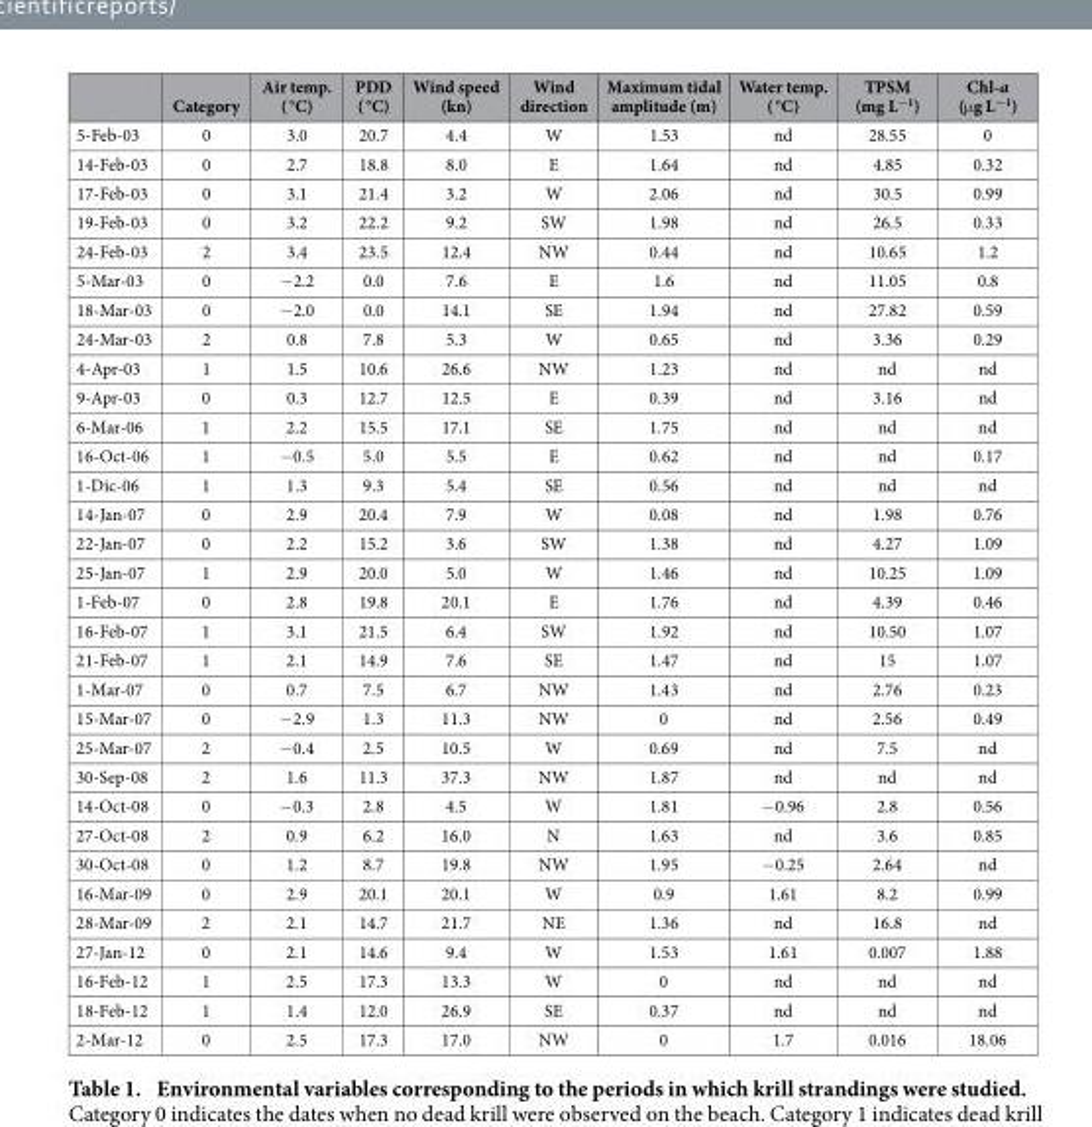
<table><thead><tr><td></td><td>Category</td><td>Air temp. ( °C)</td><td>PDD ( °C)</td><td>Wind speed (kn)</td><td>Wind direction</td><td>Maximum tidal amplitude (m)</td><td>Water temp. ( °C)</td><td>TPSM (mg L<sup>−1</sup>)</td><td>Chl-a (μ g L<sup>−1</sup>)</td></tr></thead><tbody><tr><td>5-Feb-03</td><td>0</td><td>3.0</td><td>20.7</td><td>4.4</td><td>W</td><td>1.53</td><td>nd</td><td>28.55</td><td>0</td></tr><tr><td>14-Feb-03</td><td>0</td><td>2.7</td><td>18.8</td><td>8.0</td><td>E</td><td>1.64</td><td>nd</td><td>4.85</td><td>0.32</td></tr><tr><td>17-Feb-03</td><td>0</td><td>3.1</td><td>21.4</td><td>3.2</td><td>W</td><td>2.06</td><td>nd</td><td>30.5</td><td>0.99</td></tr><tr><td>19-Feb-03</td><td>0</td><td>3.2</td><td>22.2</td><td>9.2</td><td>SW</td><td>1.98</td><td>nd</td><td>26.5</td><td>0.33</td></tr><tr><td>24-Feb-03</td><td>2</td><td>3.4</td><td>23.5</td><td>12.4</td><td>NW</td><td>0.44</td><td>nd</td><td>10.65</td><td>1.2</td></tr><tr><td>5-Mar-03</td><td>0</td><td>− 2.2</td><td>0.0</td><td>7.6</td><td>E</td><td>1.6</td><td>nd</td><td>11.05</td><td>0.8</td></tr><tr><td>18-Mar-03</td><td>0</td><td>− 2.0</td><td>0.0</td><td>14.1</td><td>SE</td><td>1.94</td><td>nd</td><td>27.82</td><td>0.59</td></tr><tr><td>24-Mar-03</td><td>2</td><td>0.8</td><td>7.8</td><td>5.3</td><td>W</td><td>0.65</td><td>nd</td><td>3.36</td><td>0.29</td></tr><tr><td>4-Apr-03</td><td>1</td><td>1.5</td><td>10.6</td><td>26.6</td><td>NW</td><td>1.23</td><td>nd</td><td>nd</td><td>nd</td></tr><tr><td>9-Apr-03</td><td>0</td><td>0.3</td><td>12.7</td><td>12.5</td><td>E</td><td>0.39</td><td>nd</td><td>3.16</td><td>nd</td></tr><tr><td>6-Mar-06</td><td>1</td><td>2.2</td><td>15.5</td><td>17.1</td><td>SE</td><td>1.75</td><td>nd</td><td>nd</td><td>nd</td></tr><tr><td>16-Oct-06</td><td>1</td><td>− 0.5</td><td>5.0</td><td>5.5</td><td>E</td><td>0.62</td><td>nd</td><td>nd</td><td>0.17</td></tr><tr><td>1-Dic-06</td><td>1</td><td>1.3</td><td>9.3</td><td>5.4</td><td>SE</td><td>0.56</td><td>nd</td><td>nd</td><td>nd</td></tr><tr><td>14-Jan-07</td><td>0</td><td>2.9</td><td>20.4</td><td>7.9</td><td>W</td><td>0.08</td><td>nd</td><td>1.98</td><td>0.76</td></tr><tr><td>22-Jan-07</td><td>0</td><td>2.2</td><td>15.2</td><td>3.6</td><td>SW</td><td>1.38</td><td>nd</td><td>4.27</td><td>1.09</td></tr><tr><td>25-Jan-07</td><td>1</td><td>2.9</td><td>20.0</td><td>5.0</td><td>W</td><td>1.46</td><td>nd</td><td>10.25</td><td>1.09</td></tr><tr><td>1-Feb-07</td><td>0</td><td>2.8</td><td>19.8</td><td>20.1</td><td>E</td><td>1.76</td><td>nd</td><td>4.39</td><td>0.46</td></tr><tr><td>16-Feb-07</td><td>1</td><td>3.1</td><td>21.5</td><td>6.4</td><td>SW</td><td>1.92</td><td>nd</td><td>10.50</td><td>1.07</td></tr><tr><td>21-Feb-07</td><td>1</td><td>2.1</td><td>14.9</td><td>7.6</td><td>SE</td><td>1.47</td><td>nd</td><td>15</td><td>1.07</td></tr><tr><td>1-Mar-07</td><td>0</td><td>0.7</td><td>7.5</td><td>6.7</td><td>NW</td><td>1.43</td><td>nd</td><td>2.76</td><td>0.23</td></tr><tr><td>15-Mar-07</td><td>0</td><td>− 2.9</td><td>1.3</td><td>11.3</td><td>NW</td><td>0</td><td>nd</td><td>2.56</td><td>0.49</td></tr><tr><td>25-Mar-07</td><td>2</td><td>− 0.4</td><td>2.5</td><td>10.5</td><td>W</td><td>0.69</td><td>nd</td><td>7.5</td><td>nd</td></tr><tr><td>30-Sep-08</td><td>2</td><td>1.6</td><td>11.3</td><td>37.3</td><td>NW</td><td>1.87</td><td>nd</td><td>nd</td><td>nd</td></tr><tr><td>14-Oct-08</td><td>0</td><td>− 0.3</td><td>2.8</td><td>4.5</td><td>W</td><td>1.81</td><td>− 0.96</td><td>2.8</td><td>0.56</td></tr><tr><td>27-Oct-08</td><td>2</td><td>0.9</td><td>6.2</td><td>16.0</td><td>N</td><td>1.63</td><td>nd</td><td>3.6</td><td>0.85</td></tr><tr><td>30-Oct-08</td><td>0</td><td>1.2</td><td>8.7</td><td>19.8</td><td>NW</td><td>1.95</td><td>− 0.25</td><td>2.64</td><td>nd</td></tr><tr><td>16-Mar-09</td><td>0</td><td>2.9</td><td>20.1</td><td>20.1</td><td>W</td><td>0.9</td><td>1.61</td><td>8.2</td><td>0.99</td></tr><tr><td>28-Mar-09</td><td>2</td><td>2.1</td><td>14.7</td><td>21.7</td><td>NE</td><td>1.36</td><td>nd</td><td>16.8</td><td>nd</td></tr><tr><td>27-Jan-12</td><td>0</td><td>2.1</td><td>14.6</td><td>9.4</td><td>W</td><td>1.53</td><td>1.61</td><td>0.007</td><td>1.88</td></tr><tr><td>16-Feb-12</td><td>1</td><td>2.5</td><td>17.3</td><td>13.3</td><td>W</td><td>0</td><td>nd</td><td>nd</td><td>nd</td></tr><tr><td>18-Feb-12</td><td>1</td><td>1.4</td><td>12.0</td><td>26.9</td><td>SE</td><td>0.37</td><td>nd</td><td>nd</td><td>nd</td></tr><tr><td>2-Mar-12</td><td>0</td><td>2.5</td><td>17.3</td><td>17.0</td><td>NW</td><td>0</td><td>1.7</td><td>0.016</td><td>18.06</td></tr></tbody></table>